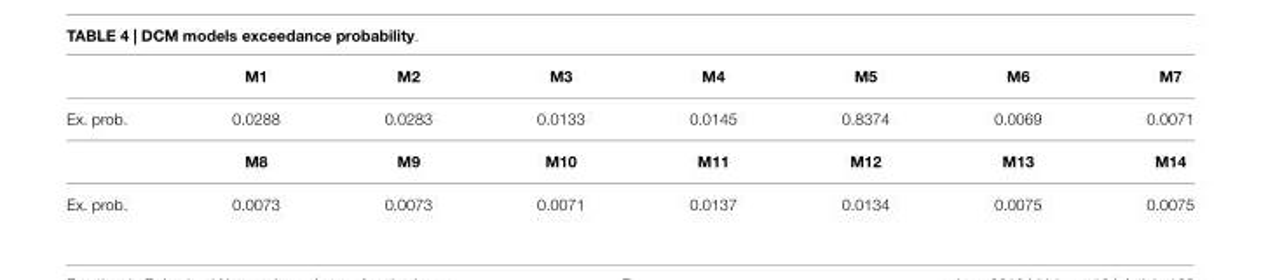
<table><thead><tr><td></td><td>M1</td><td>M2</td><td>M3</td><td>M4</td><td>M5</td><td>M6</td><td>M7</td></tr></thead><tbody><tr><td rowspan="2">Ex. prob.</td><td>0.0288</td><td>0.0283</td><td>0.0133</td><td>0.0145</td><td>0.8374</td><td>0.0069</td><td>0.0071</td></tr><tr><td>M8</td><td>M9</td><td>M10</td><td>M11</td><td>M12</td><td>M13</td><td>M14</td></tr><tr><td>Ex. prob.</td><td>0.0073</td><td>0.0073</td><td>0.0071</td><td>0.0137</td><td>0.0134</td><td>0.0075</td><td>0.0075</td></tr></tbody></table>